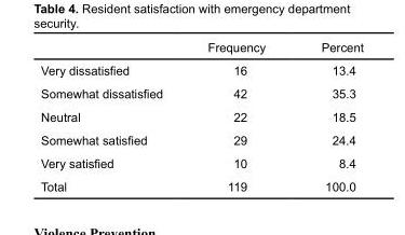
<table><thead><tr><td></td><td>Frequency</td><td>Percent</td></tr></thead><tbody><tr><td>Very dissatisfied</td><td>16</td><td>13.4</td></tr><tr><td>Somewhat dissatisfied</td><td>42</td><td>35.3</td></tr><tr><td>Neutral</td><td>22</td><td>18.5</td></tr><tr><td>Somewhat satisfied</td><td>29</td><td>24.4</td></tr><tr><td>Very satisfied</td><td>10</td><td>8.4</td></tr><tr><td>Total</td><td>119</td><td>100.0</td></tr></tbody></table>